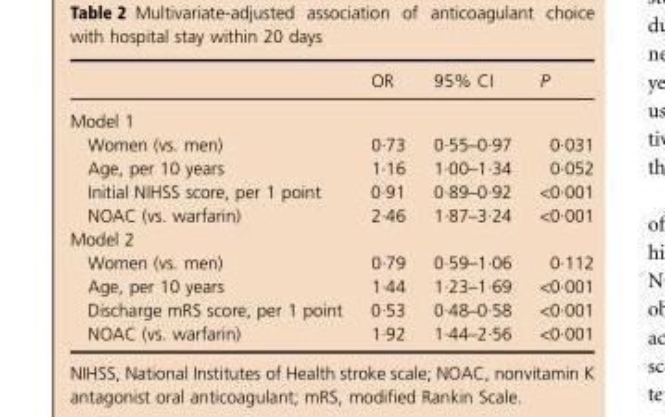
<table><thead><tr><td></td><td>OR</td><td>95% CI</td><td>P</td></tr></thead><tbody><tr><td colspan="4">Model 1</td></tr><tr><td>Women (vs. men)</td><td>0·73</td><td>0·55–0·97</td><td>0·031</td></tr><tr><td>Age, per 10 years</td><td>1·16</td><td>1·00–1·34</td><td>0·052</td></tr><tr><td>Initial NIHSS score, per 1 point</td><td>0·91</td><td>0·89–0·92</td><td>&lt;0·001</td></tr><tr><td>NOAC (vs. warfarin)</td><td>2·46</td><td>1·87–3·24</td><td>&lt;0·001</td></tr><tr><td colspan="4">Model 2</td></tr><tr><td>Women (vs. men)</td><td>0·79</td><td>0·59–1·06</td><td>0·112</td></tr><tr><td>Age, per 10 years</td><td>1·44</td><td>1·23–1·69</td><td>&lt;0·001</td></tr><tr><td>Discharge mRS score, per 1 point</td><td>0·53</td><td>0·48–0·58</td><td>&lt;0·001</td></tr><tr><td>NOAC (vs. warfarin)</td><td>1·92</td><td>1·44–2·56</td><td>&lt;0·001</td></tr></tbody></table>